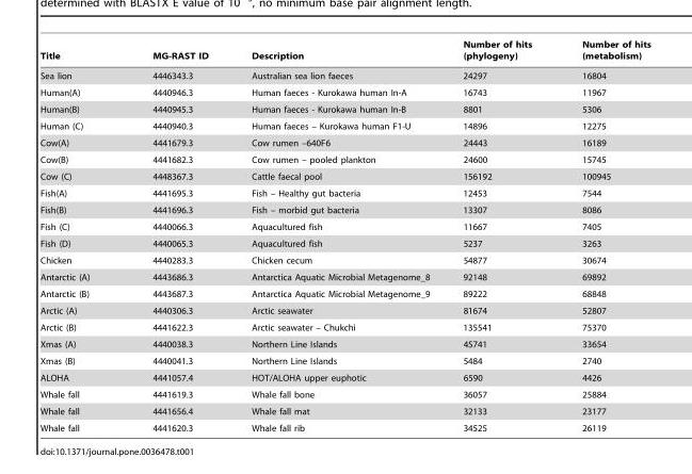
<table><thead><tr><td>Title</td><td>MG-RAST ID</td><td>Description</td><td>Number of hits (phylogeny)</td><td>Number of hits (metabolism)</td></tr></thead><tbody><tr><td>Sea lion</td><td>4446343.3</td><td>Australian sea lion faeces</td><td>24297</td><td>16804</td></tr><tr><td>Human(A)</td><td>4440946.3</td><td>Human faeces - Kurokawa human In-A</td><td>16743</td><td>11967</td></tr><tr><td>Human(B)</td><td>4440945.3</td><td>Human faeces - Kurokawa human In-B</td><td>8801</td><td>5306</td></tr><tr><td>Human (C)</td><td>4440940.3</td><td>Human faeces – Kurokawa human F1-U</td><td>14896</td><td>12275</td></tr><tr><td>Cow(A)</td><td>4441679.3</td><td>Cow rumen –640F6</td><td>24443</td><td>16189</td></tr><tr><td>Cow(B)</td><td>4441682.3</td><td>Cow rumen – pooled plankton</td><td>24600</td><td>15745</td></tr><tr><td>Cow (C)</td><td>4448367.3</td><td>Cattle faecal pool</td><td>156192</td><td>100945</td></tr><tr><td>Fish(A)</td><td>4441695.3</td><td>Fish – Healthy gut bacteria</td><td>12453</td><td>7544</td></tr><tr><td>Fish(B)</td><td>4441696.3</td><td>Fish – morbid gut bacteria</td><td>13307</td><td>8086</td></tr><tr><td>Fish (C)</td><td>4440066.3</td><td>Aquacultured fish</td><td>11667</td><td>7405</td></tr><tr><td>Fish (D)</td><td>4440065.3</td><td>Aquacultured fish</td><td>5237</td><td>3263</td></tr><tr><td>Chicken</td><td>4440283.3</td><td>Chicken cecum</td><td>54877</td><td>30674</td></tr><tr><td>Antarctic (A)</td><td>4443686.3</td><td>Antarctica Aquatic Microbial Metagenome_8</td><td>92148</td><td>69892</td></tr><tr><td>Antarctic (B)</td><td>4443687.3</td><td>Antarctica Aquatic Microbial Metagenome_9</td><td>89222</td><td>68848</td></tr><tr><td>Arctic (A)</td><td>4440306.3</td><td>Arctic seawater</td><td>81674</td><td>52807</td></tr><tr><td>Arctic (B)</td><td>4441622.3</td><td>Arctic seawater – Chukchi</td><td>135541</td><td>75370</td></tr><tr><td>Xmas (A)</td><td>4440038.3</td><td>Northern Line Islands</td><td>45741</td><td>33654</td></tr><tr><td>Xmas (B)</td><td>4440041.3</td><td>Northern Line Islands</td><td>5484</td><td>2740</td></tr><tr><td>ALOHA</td><td>4441057.4</td><td>HOT/ALOHA upper euphotic</td><td>6590</td><td>4426</td></tr><tr><td>Whale fall</td><td>4441619.3</td><td>Whale fall bone</td><td>36057</td><td>25884</td></tr><tr><td>Whale fall</td><td>4441656.4</td><td>Whale fall mat</td><td>32133</td><td>23177</td></tr><tr><td>Whale fall</td><td>4441620.3</td><td>Whale fall rib</td><td>34525</td><td>26119</td></tr></tbody></table>